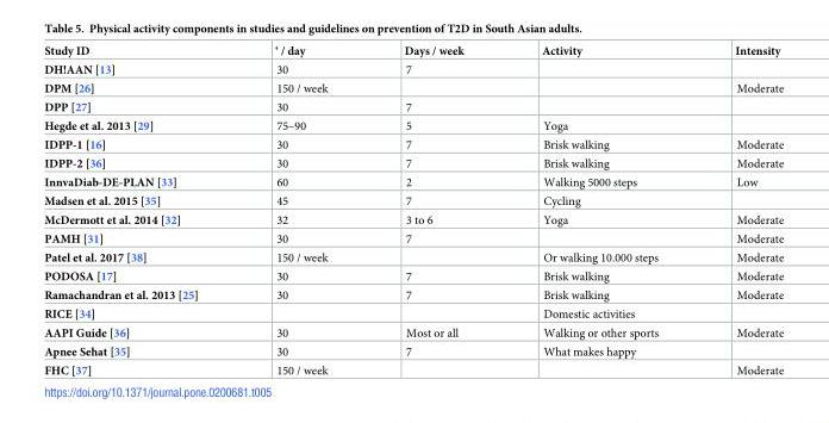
<table><thead><tr><td>Study ID</td><td>‘ / day</td><td>Days / week</td><td>Activity</td><td>Intensity</td></tr></thead><tbody><tr><td>DH!AAN [13]</td><td>30</td><td>7</td><td></td><td></td></tr><tr><td>DPM [26]</td><td>150 / week</td><td></td><td></td><td>Moderate</td></tr><tr><td>DPP [27]</td><td>30</td><td>7</td><td></td><td></td></tr><tr><td>Hegde et al. 2013 [29]</td><td>75–90</td><td>5</td><td>Yoga</td><td></td></tr><tr><td>IDPP-1 [16]</td><td>30</td><td>7</td><td>Brisk walking</td><td>Moderate</td></tr><tr><td>IDPP-2 [36]</td><td>30</td><td>7</td><td>Brisk walking</td><td>Moderate</td></tr><tr><td>InnvaDiab-DE-PLAN [33]</td><td>60</td><td>2</td><td>Walking 5000 steps</td><td>Low</td></tr><tr><td>Madsen et al. 2015 [35]</td><td>45</td><td>7</td><td>Cycling</td><td></td></tr><tr><td>McDermott et al. 2014 [32]</td><td>32</td><td>3 to 6</td><td>Yoga</td><td>Moderate</td></tr><tr><td>PAMH [31]</td><td>30</td><td>7</td><td></td><td>Moderate</td></tr><tr><td>Patel et al. 2017 [38]</td><td>150 / week</td><td></td><td>Or walking 10.000 steps</td><td>Moderate</td></tr><tr><td>PODOSA [17]</td><td>30</td><td>7</td><td>Brisk walking</td><td>Moderate</td></tr><tr><td>Ramachandran et al. 2013 [25]</td><td>30</td><td>7</td><td>Brisk walking</td><td>Moderate</td></tr><tr><td>RICE [34]</td><td></td><td></td><td>Domestic activities</td><td></td></tr><tr><td>AAPI Guide [36]</td><td>30</td><td>Most or all</td><td>Walking or other sports</td><td>Moderate</td></tr><tr><td>Apnee Sehat [35]</td><td>30</td><td>7</td><td>What makes happy</td><td></td></tr><tr><td>FHC [37]</td><td>150 / week</td><td></td><td></td><td>Moderate</td></tr></tbody></table>